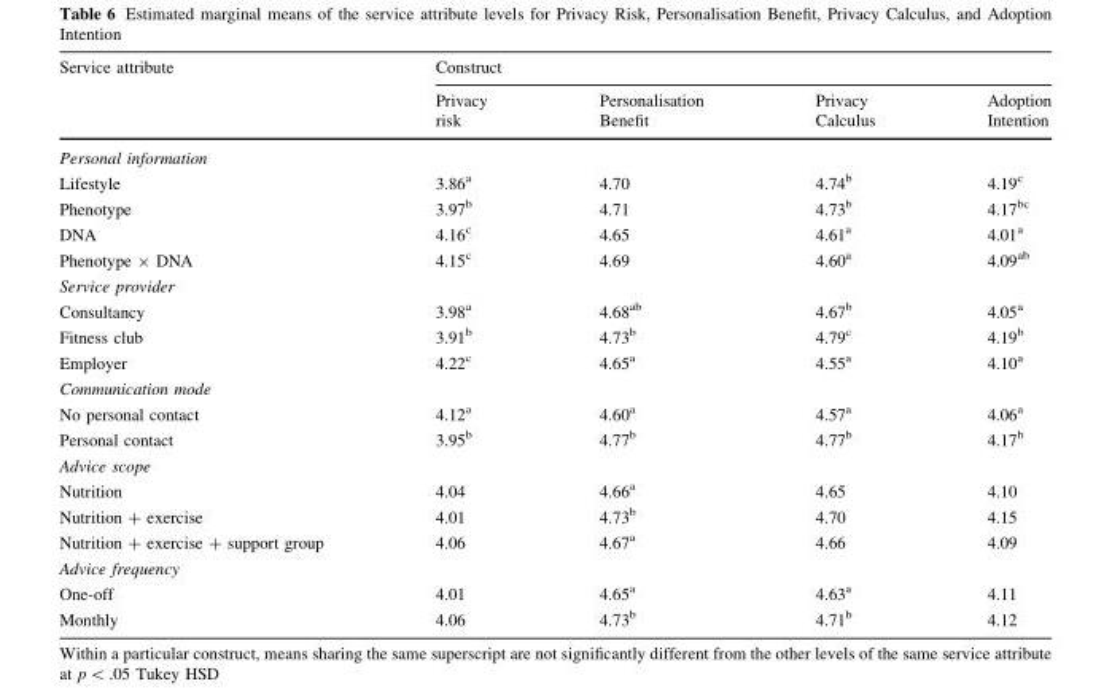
<table><thead><tr><td rowspan="2">Service attribute</td><td colspan="4">Construct</td></tr><tr><td>Privacy risk</td><td>Personalisation Benefit</td><td>Privacy Calculus</td><td>Adoption Intention</td></tr></thead><tbody><tr><td colspan="5">Personal information</td></tr><tr><td>Lifestyle</td><td>3.86<sup>a</sup></td><td>4.70</td><td>4.74<sup>b</sup></td><td>4.19<sup>c</sup></td></tr><tr><td>Phenotype</td><td>3.97<sup>b</sup></td><td>4.71</td><td>4.73<sup>b</sup></td><td>4.17<sup>bc</sup></td></tr><tr><td>DNA</td><td>4.16<sup>c</sup></td><td>4.65</td><td>4.61<sup>a</sup></td><td>4.01<sup>a</sup></td></tr><tr><td>Phenotype × DNA</td><td>4.15<sup>c</sup></td><td>4.69</td><td>4.60<sup>a</sup></td><td>4.09<sup>ab</sup></td></tr><tr><td colspan="5">Service provider</td></tr><tr><td>Consultancy</td><td>3.98<sup>a</sup></td><td>4.68<sup>ab</sup></td><td>4.67<sup>b</sup></td><td>4.05<sup>a</sup></td></tr><tr><td>Fitness club</td><td>3.91<sup>b</sup></td><td>4.73<sup>b</sup></td><td>4.79<sup>c</sup></td><td>4.19<sup>b</sup></td></tr><tr><td>Employer</td><td>4.22<sup>c</sup></td><td>4.65<sup>a</sup></td><td>4.55<sup>a</sup></td><td>4.10<sup>a</sup></td></tr><tr><td colspan="5">Communication mode</td></tr><tr><td>No personal contact</td><td>4.12<sup>a</sup></td><td>4.60<sup>a</sup></td><td>4.57<sup>a</sup></td><td>4.06<sup>a</sup></td></tr><tr><td>Personal contact</td><td>3.95<sup>b</sup></td><td>4.77<sup>b</sup></td><td>4.77<sup>b</sup></td><td>4.17<sup>b</sup></td></tr><tr><td colspan="5">Advice scope</td></tr><tr><td>Nutrition</td><td>4.04</td><td>4.66<sup>a</sup></td><td>4.65</td><td>4.10</td></tr><tr><td>Nutrition + exercise</td><td>4.01</td><td>4.73<sup>b</sup></td><td>4.70</td><td>4.15</td></tr><tr><td>Nutrition + exercise + support group</td><td>4.06</td><td>4.67<sup>a</sup></td><td>4.66</td><td>4.09</td></tr><tr><td colspan="5">Advice frequency</td></tr><tr><td>One-off</td><td>4.01</td><td>4.65<sup>a</sup></td><td>4.63<sup>a</sup></td><td>4.11</td></tr><tr><td>Monthly</td><td>4.06</td><td>4.73<sup>b</sup></td><td>4.71<sup>b</sup></td><td>4.12</td></tr></tbody></table>